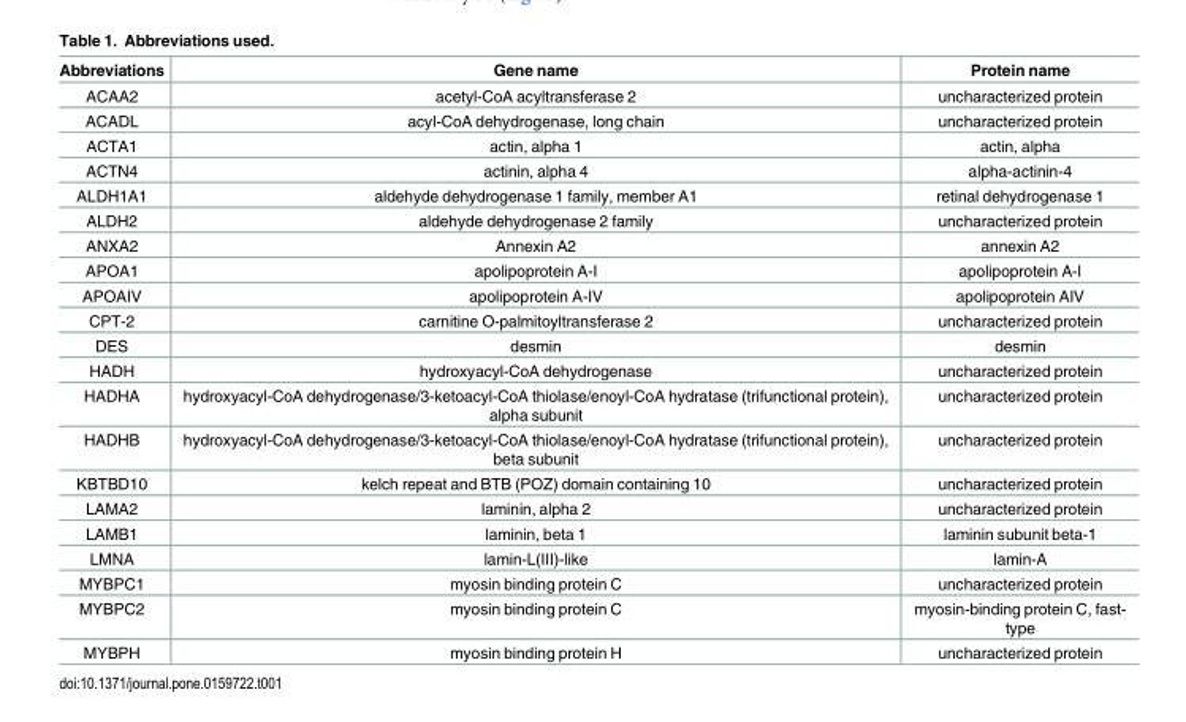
<table><thead><tr><td>Abbreviations</td><td>Gene name</td><td>Protein name</td></tr></thead><tbody><tr><td>ACAA2</td><td>acetyl-CoA acyltransferase 2</td><td>uncharacterized protein</td></tr><tr><td>ACADL</td><td>acyl-CoA dehydrogenase, long chain</td><td>uncharacterized protein</td></tr><tr><td>ACTA1</td><td>actin, alpha 1</td><td>actin, alpha</td></tr><tr><td>ACTN4</td><td>actinin, alpha 4</td><td>alpha-actinin-4</td></tr><tr><td>ALDH1A1</td><td>aldehyde dehydrogenase 1 family, member A1</td><td>retinal dehydrogenase 1</td></tr><tr><td>ALDH2</td><td>aldehyde dehydrogenase 2 family</td><td>uncharacterized protein</td></tr><tr><td>ANXA2</td><td>Annexin A2</td><td>annexin A2</td></tr><tr><td>APOA1</td><td>apolipoprotein A-I</td><td>apolipoprotein A-I</td></tr><tr><td>APOAIV</td><td>apolipoprotein A-IV</td><td>apolipoprotein AIV</td></tr><tr><td>CPT-2</td><td>carnitine O-palmitoyltransferase 2</td><td>uncharacterized protein</td></tr><tr><td>DES</td><td>desmin</td><td>desmin</td></tr><tr><td>HADH</td><td>hydroxyacyl-CoA dehydrogenase</td><td>uncharacterized protein</td></tr><tr><td>HADHA</td><td>hydroxyacyl-CoA dehydrogenase/3-ketoacyl-CoA thiolase/enoyl-CoA hydratase (trifunctional protein), alpha subunit</td><td>uncharacterized protein</td></tr><tr><td>HADHB</td><td>hydroxyacyl-CoA dehydrogenase/3-ketoacyl-CoA thiolase/enoyl-CoA hydratase (trifunctional protein), beta subunit</td><td>uncharacterized protein</td></tr><tr><td>KBTBD10</td><td>kelch repeat and BTB (POZ) domain containing 10</td><td>uncharacterized protein</td></tr><tr><td>LAMA2</td><td>laminin, alpha 2</td><td>uncharacterized protein</td></tr><tr><td>LAMB1</td><td>laminin, beta 1</td><td>laminin subunit beta-1</td></tr><tr><td>LMNA</td><td>lamin-L(III)-like</td><td>lamin-A</td></tr><tr><td>MYBPC1</td><td>myosin binding protein C</td><td>uncharacterized protein</td></tr><tr><td>MYBPC2</td><td>myosin binding protein C</td><td>myosin-binding protein C, fast- type</td></tr><tr><td>MYBPH</td><td>myosin binding protein H</td><td>uncharacterized protein</td></tr></tbody></table>